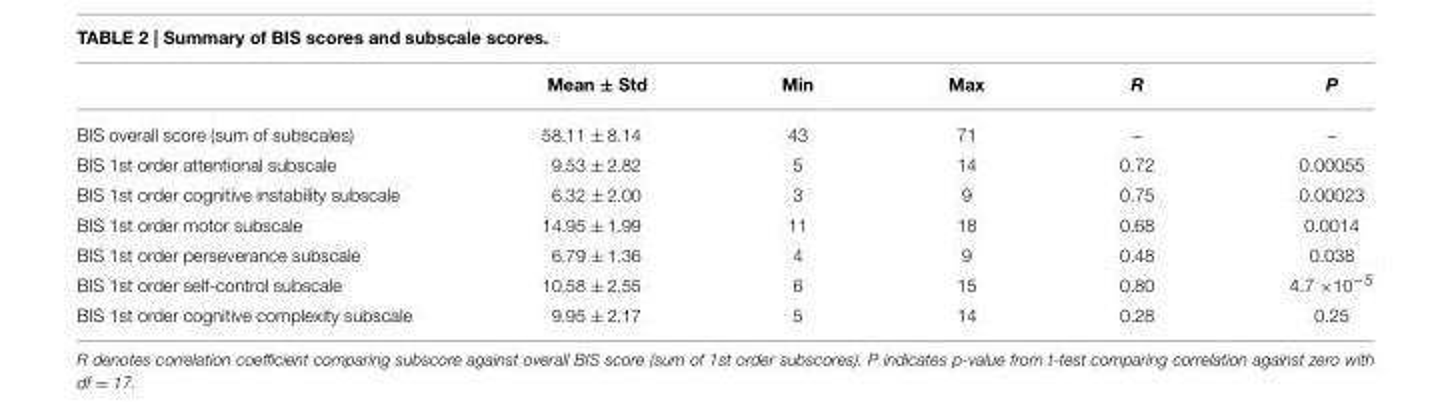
<table><thead><tr><td></td><td>Mean ± Std</td><td>Min</td><td>Max</td><td>R</td><td>P</td></tr></thead><tbody><tr><td>BIS overall score (sum of subscales)</td><td>58.11 ± 8.14</td><td>43</td><td>71</td><td>–</td><td>–</td></tr><tr><td>BIS 1st order attentional subscale</td><td>9.53 ± 2.82</td><td>5</td><td>14</td><td>0.72</td><td>0.00055</td></tr><tr><td>BIS 1st order cognitive instability subscale</td><td>6.32 ± 2.00</td><td>3</td><td>9</td><td>0.75</td><td>0.00023</td></tr><tr><td>BIS 1st order motor subscale</td><td>14.95 ± 1.99</td><td>11</td><td>18</td><td>0.68</td><td>0.0014</td></tr><tr><td>BIS 1st order perseverance subscale</td><td>6.79 ± 1.36</td><td>4</td><td>9</td><td>0.48</td><td>0.038</td></tr><tr><td>BIS 1st order self-control subscale</td><td>10.58 ± 2.55</td><td>6</td><td>15</td><td>0.80</td><td>4.7 ×10<sup>−5</sup></td></tr><tr><td>BIS 1st order cognitive complexity subscale</td><td>9.95 ± 2.17</td><td>5</td><td>14</td><td>0.28</td><td>0.25</td></tr></tbody></table>